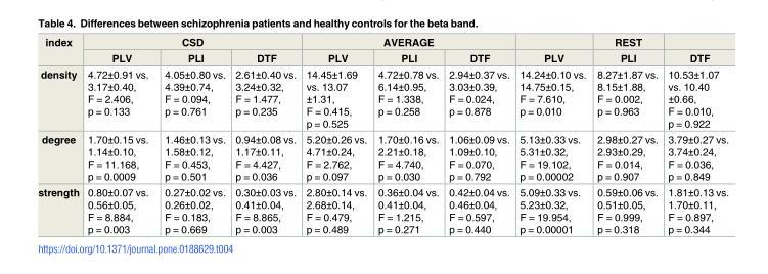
<table><thead><tr><td rowspan="2">index</td><td colspan="3">CSD</td><td colspan="3">AVERAGE</td><td rowspan="2">PLV</td><td rowspan="2">REST PLI</td><td rowspan="2">DTF</td></tr><tr><td>PLV</td><td>PLI</td><td>DTF</td><td>PLV</td><td>PLI</td><td>DTF</td></tr></thead><tbody><tr><td>density</td><td>4.72±0.91 vs. 3.17±0.40, F = 2.406, p = 0.133</td><td>4.05±0.80 vs. 4.39±0.74, F = 0.094, p = 0.761</td><td>2.61±0.40 vs. 3.24±0.32, F = 1.477, p = 0.235</td><td>14.45±1.69 vs. 13.07 ±1.31, F = 0.415, p = 0.525</td><td>4.72±0.78 vs. 6.14±0.95, F = 1.338, p = 0.258</td><td>2.94±0.37 vs. 3.03±0.39, F = 0.024, p = 0.878</td><td>14.24±0.10 vs. 14.75±0.15, F = 7.610, p = 0.010</td><td>8.27±1.87 vs. 8.15±1.88, F = 0.002, p = 0.963</td><td>10.53±1.07 vs. 10.40 ±0.66, F = 0.010, p = 0.922</td></tr><tr><td>degree</td><td>1.70±0.15 vs. 1.14±0.10, F = 11.168, p = 0.0009</td><td>1.46±0.13 vs. 1.58±0.12, F = 0.453, p = 0.501</td><td>0.94±0.08 vs. 1.17±0.11, F = 4.427, p = 0.036</td><td>5.20±0.26 vs. 4.71±0.24, F = 2.762, p = 0.097</td><td>1.70±0.16 vs. 2.21±0.18, F = 4.740, p = 0.030</td><td>1.06±0.09 vs. 1.09±0.10, F = 0.070, p = 0.792</td><td>5.13±0.33 vs. 5.31±0.32, F = 19.102, p = 0.00002</td><td>2.98±0.27 vs. 2.93±0.29, F = 0.014, p = 0.907</td><td>3.79±0.27 vs. 3.74±0.24, F = 0.036, p = 0.849</td></tr><tr><td>strength</td><td>0.80±0.07 vs. 0.56±0.05, F = 8.884, p = 0.003</td><td>0.27±0.02 vs. 0.26±0.02, F = 0.183, p = 0.669</td><td>0.30±0.03 vs. 0.41±0.04, F = 8.865, p = 0.003</td><td>2.80±0.14 vs. 2.68±0.14, F = 0.479, p = 0.489</td><td>0.36±0.04 vs. 0.41±0.04, F = 1.215, p = 0.271</td><td>0.42±0.04 vs. 0.46±0.04, F = 0.597, p = 0.440</td><td>5.09±0.33 vs. 5.23±0.32, F = 19.954, p = 0.00001</td><td>0.59±0.06 vs. 0.51±0.05, F = 0.999, p = 0.318</td><td>1.81±0.13 vs. 1.70±0.11, F = 0.897, p = 0.344</td></tr></tbody></table>